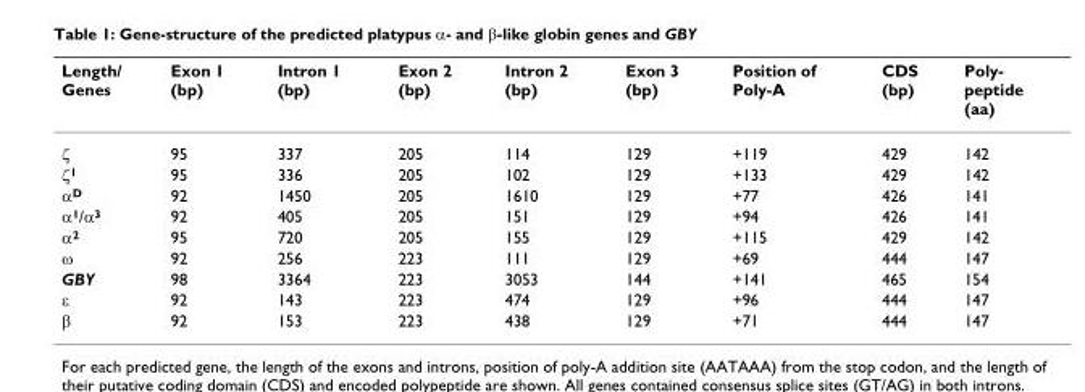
<table><thead><tr><td>Length/ Genes</td><td>Exon 1 (bp)</td><td>Intron 1 (bp)</td><td>Exon 2 (bp)</td><td>Intron 2 (bp)</td><td>Exon 3 (bp)</td><td>Position of Poly-A</td><td>CDS (bp)</td><td>Poly- peptide (aa)</td></tr></thead><tbody><tr><td>ζ</td><td>95</td><td>337</td><td>205</td><td>114</td><td>129</td><td>+119</td><td>429</td><td>142</td></tr><tr><td>ζ<sup>1</sup></td><td>95</td><td>336</td><td>205</td><td>102</td><td>129</td><td>+133</td><td>429</td><td>142</td></tr><tr><td>α<sup>D</sup></td><td>92</td><td>1450</td><td>205</td><td>1610</td><td>129</td><td>+77</td><td>426</td><td>141</td></tr><tr><td>α<sup>1</sup>/α<sup>3</sup></td><td>92</td><td>405</td><td>205</td><td>151</td><td>129</td><td>+94</td><td>426</td><td>141</td></tr><tr><td>α<sup>2</sup></td><td>95</td><td>720</td><td>205</td><td>155</td><td>129</td><td>+115</td><td>429</td><td>142</td></tr><tr><td>ω</td><td>92</td><td>256</td><td>223</td><td>111</td><td>129</td><td>+69</td><td>444</td><td>147</td></tr><tr><td>GBY</td><td>98</td><td>3364</td><td>223</td><td>3053</td><td>144</td><td>+141</td><td>465</td><td>154</td></tr><tr><td>ε</td><td>92</td><td>143</td><td>223</td><td>474</td><td>129</td><td>+96</td><td>444</td><td>147</td></tr><tr><td>β</td><td>92</td><td>153</td><td>223</td><td>438</td><td>129</td><td>+71</td><td>444</td><td>147</td></tr></tbody></table>